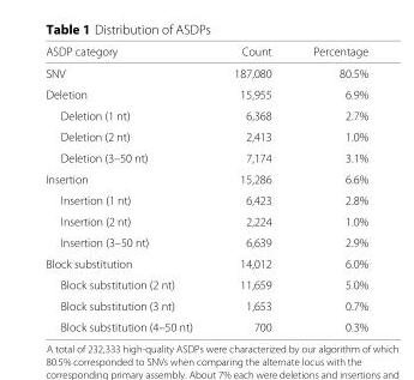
<table><thead><tr><td>ASDP category</td><td>Count</td><td>Percentage</td></tr></thead><tbody><tr><td>SNV</td><td>187,080</td><td>80.5%</td></tr><tr><td>Deletion</td><td>15,955</td><td>6.9%</td></tr><tr><td>Deletion (1 nt)</td><td>6,368</td><td>2.7%</td></tr><tr><td>Deletion (2 nt)</td><td>2,413</td><td>1.0%</td></tr><tr><td>Deletion (3–50 nt)</td><td>7,174</td><td>3.1%</td></tr><tr><td>Insertion</td><td>15,286</td><td>6.6%</td></tr><tr><td>Insertion (1 nt)</td><td>6,423</td><td>2.8%</td></tr><tr><td>Insertion (2 nt)</td><td>2,224</td><td>1.0%</td></tr><tr><td>Insertion (3–50 nt)</td><td>6,639</td><td>2.9%</td></tr><tr><td>Block substitution</td><td>14,012</td><td>6.0%</td></tr><tr><td>Block substitution (2 nt)</td><td>11,659</td><td>5.0%</td></tr><tr><td>Block substitution (3 nt)</td><td>1,653</td><td>0.7%</td></tr><tr><td>Block substitution (4–50 nt)</td><td>700</td><td>0.3%</td></tr></tbody></table>